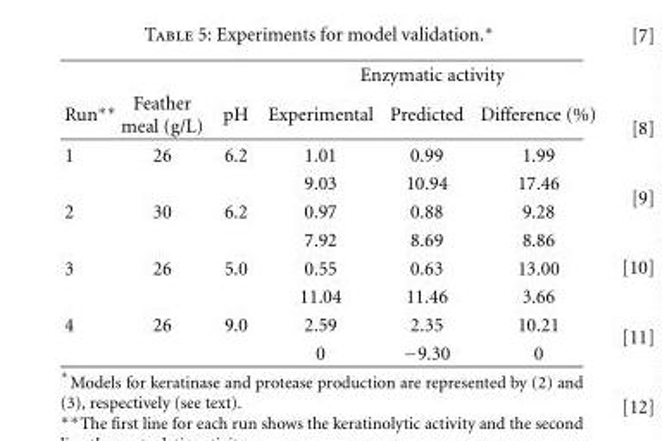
<table><thead><tr><td rowspan="2">Run∗∗</td><td rowspan="2">Feather meal (g/L)</td><td rowspan="2">pH</td><td colspan="3">Enzymatic activity</td></tr><tr><td>Experimental</td><td>Predicted</td><td>Difference (%)</td></tr></thead><tbody><tr><td rowspan="2">1</td><td>26</td><td>6.2</td><td>1.01</td><td>0.99</td><td>1.99</td></tr><tr><td></td><td></td><td>9.03</td><td>10.94</td><td>17.46</td></tr><tr><td rowspan="2">2</td><td>30</td><td>6.2</td><td>0.97</td><td>0.88</td><td>9.28</td></tr><tr><td></td><td></td><td>7.92</td><td>8.69</td><td>8.86</td></tr><tr><td rowspan="2">3</td><td>26</td><td>5.0</td><td>0.55</td><td>0.63</td><td>13.00</td></tr><tr><td></td><td></td><td>11.04</td><td>11.46</td><td>3.66</td></tr><tr><td rowspan="2">4</td><td>26</td><td>9.0</td><td>2.59</td><td>2.35</td><td>10.21</td></tr><tr><td></td><td></td><td>0</td><td>−9.30</td><td>0</td></tr></tbody></table>